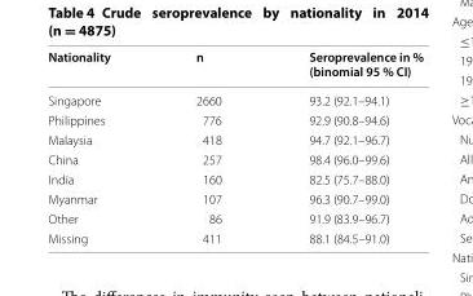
<table><thead><tr><td>Nationality</td><td>n</td><td>Seroprevalence in % (binomial 95 % CI)</td></tr></thead><tbody><tr><td>Singapore</td><td>2660</td><td>93.2 (92.1–94.1)</td></tr><tr><td>Philippines</td><td>776</td><td>92.9 (90.8–94.6)</td></tr><tr><td>Malaysia</td><td>418</td><td>94.7 (92.1–96.7)</td></tr><tr><td>China</td><td>257</td><td>98.4 (96.0–99.6)</td></tr><tr><td>India</td><td>160</td><td>82.5 (75.7–88.0)</td></tr><tr><td>Myanmar</td><td>107</td><td>96.3 (90.7–99.0)</td></tr><tr><td>Other</td><td>86</td><td>91.9 (83.9–96.7)</td></tr><tr><td>Missing</td><td>411</td><td>88.1 (84.5–91.0)</td></tr></tbody></table>